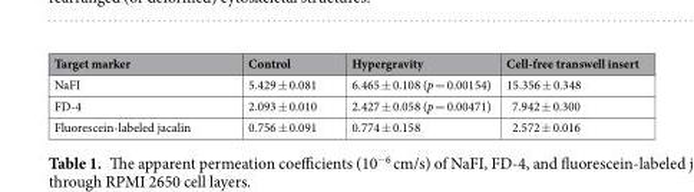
<table><thead><tr><td>Target marker</td><td>Control</td><td>Hypergravity</td><td>Cell-free transwell insert</td></tr></thead><tbody><tr><td>NaFI</td><td>5.429 ± 0.081</td><td>6.465 ± 0.108 (p = 0.00154)</td><td>15.356 ± 0.348</td></tr><tr><td>FD-4</td><td>2.093 ± 0.010</td><td>2.427 ± 0.058 (p = 0.00471)</td><td>7.942 ± 0.300</td></tr><tr><td>Fluorescein-labeled jacalin</td><td>0.756 ± 0.091</td><td>0.774 ± 0.158</td><td>2.572 ± 0.016</td></tr></tbody></table>